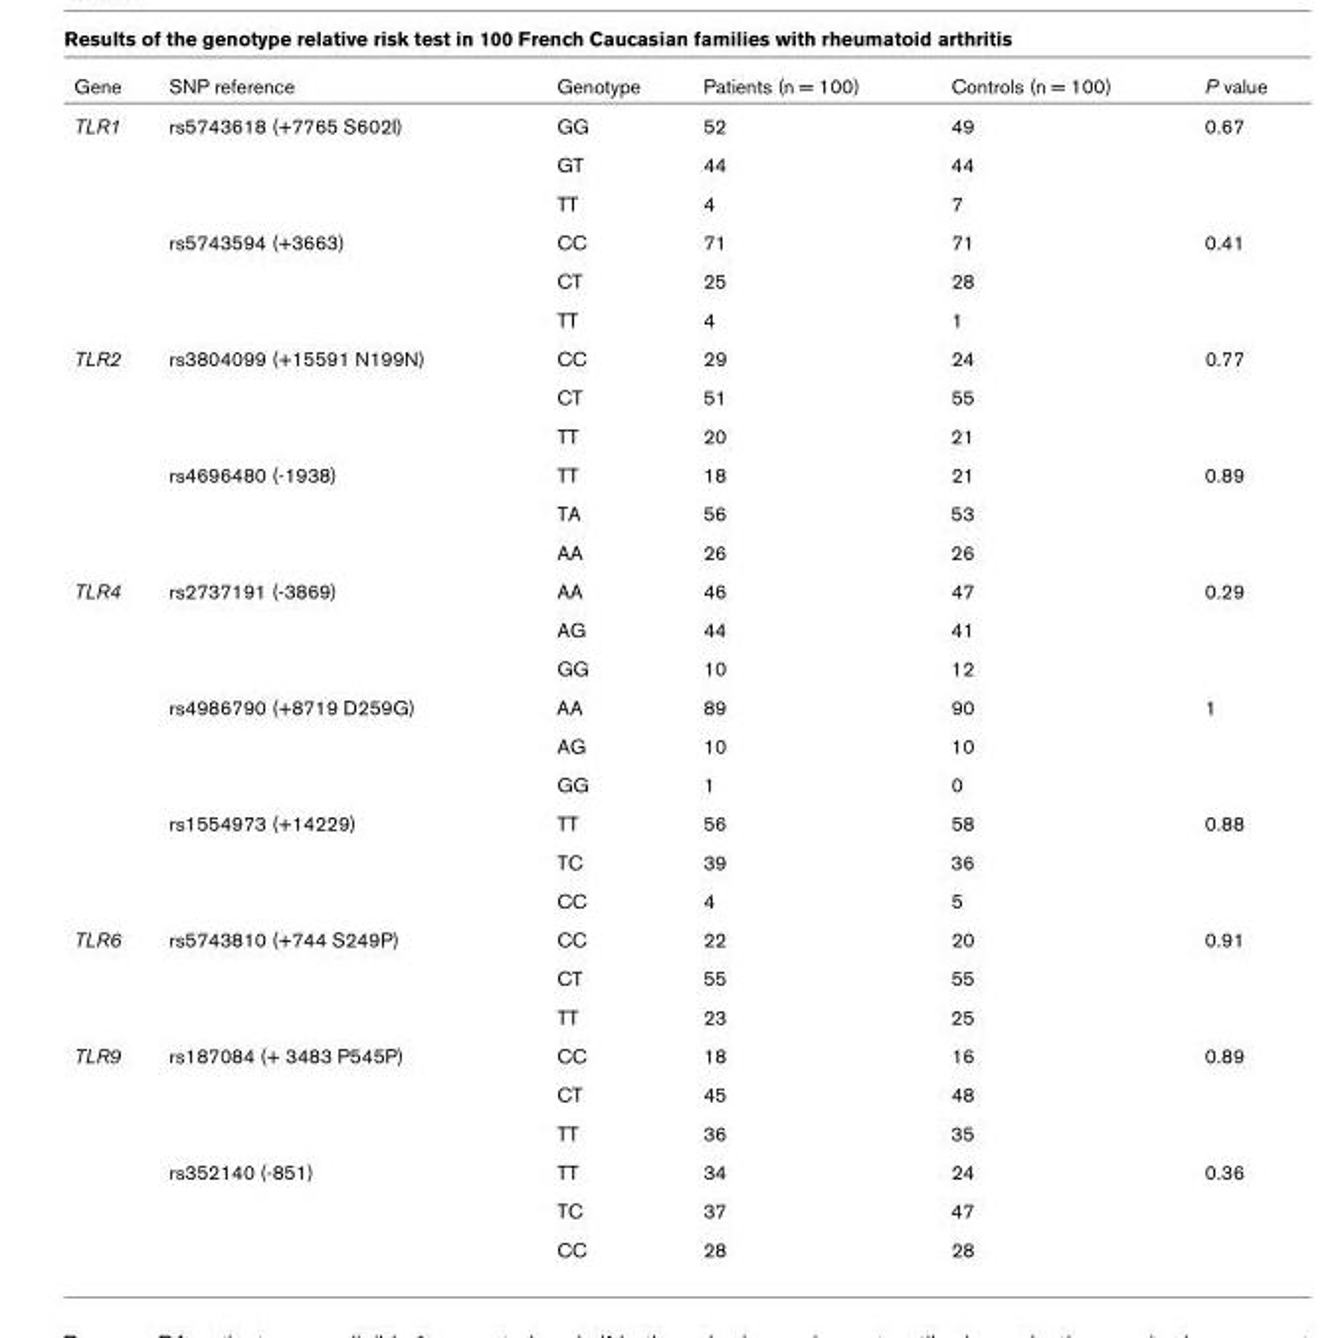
<table><thead><tr><td>Gene</td><td>SNP reference</td><td>Genotype</td><td>Patients (n = 100)</td><td>Controls (n = 100)</td><td>P value</td></tr></thead><tbody><tr><td rowspan="6">TLR1</td><td>rs5743618 (+7765 S602I)</td><td>GG</td><td>52</td><td>49</td><td>0.67</td></tr><tr><td></td><td>GT</td><td>44</td><td>44</td><td></td></tr><tr><td></td><td>TT</td><td>4</td><td>7</td><td></td></tr><tr><td>rs5743594 (+3663)</td><td>CC</td><td>71</td><td>71</td><td>0.41</td></tr><tr><td></td><td>CT</td><td>25</td><td>28</td><td></td></tr><tr><td></td><td>TT</td><td>4</td><td>1</td><td></td></tr><tr><td rowspan="6">TLR2</td><td>rs3804099 (+15591 N199N)</td><td>CC</td><td>29</td><td>24</td><td>0.77</td></tr><tr><td></td><td>CT</td><td>51</td><td>55</td><td></td></tr><tr><td></td><td>TT</td><td>20</td><td>21</td><td></td></tr><tr><td>rs4696480 (-1938)</td><td>TT</td><td>18</td><td>21</td><td>0.89</td></tr><tr><td></td><td>TA</td><td>56</td><td>53</td><td></td></tr><tr><td></td><td>AA</td><td>26</td><td>26</td><td></td></tr><tr><td rowspan="9">TLR4</td><td>rs2737191 (-3869)</td><td>AA</td><td>46</td><td>47</td><td>0.29</td></tr><tr><td></td><td>AG</td><td>44</td><td>41</td><td></td></tr><tr><td></td><td>GG</td><td>10</td><td>12</td><td></td></tr><tr><td>rs4986790 (+8719 D259G)</td><td>AA</td><td>89</td><td>90</td><td>1</td></tr><tr><td></td><td>AG</td><td>10</td><td>10</td><td></td></tr><tr><td></td><td>GG</td><td>1</td><td>0</td><td></td></tr><tr><td>rs1554973 (+14229)</td><td>TT</td><td>56</td><td>58</td><td>0.88</td></tr><tr><td></td><td>TC</td><td>39</td><td>36</td><td></td></tr><tr><td></td><td>CC</td><td>4</td><td>5</td><td></td></tr><tr><td rowspan="3">TLR6</td><td>rs5743810 (+744 S249P)</td><td>CC</td><td>22</td><td>20</td><td>0.91</td></tr><tr><td></td><td>CT</td><td>55</td><td>55</td><td></td></tr><tr><td></td><td>TT</td><td>23</td><td>25</td><td></td></tr><tr><td rowspan="6">TLR9</td><td>rs187084 (+ 3483 P545P)</td><td>CC</td><td>18</td><td>16</td><td>0.89</td></tr><tr><td></td><td>CT</td><td>45</td><td>48</td><td></td></tr><tr><td></td><td>TT</td><td>36</td><td>35</td><td></td></tr><tr><td>rs352140 (-851)</td><td>TT</td><td>34</td><td>24</td><td>0.36</td></tr><tr><td></td><td>TC</td><td>37</td><td>47</td><td></td></tr><tr><td></td><td>CC</td><td>28</td><td>28</td><td></td></tr></tbody></table>